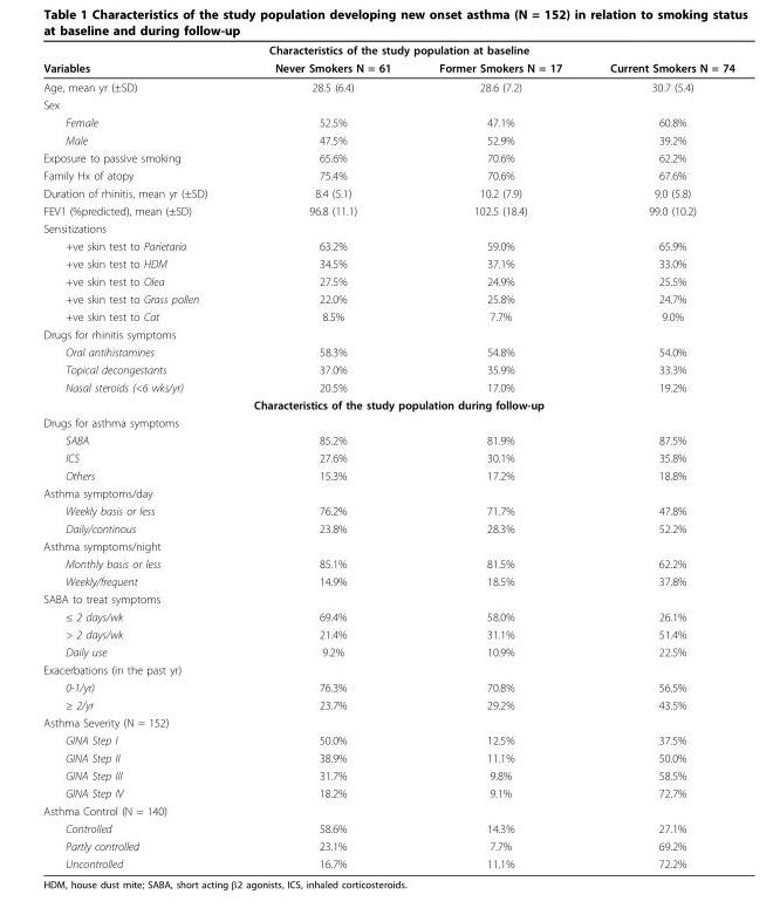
<table><tbody><tr><td colspan="4">Characteristics of the study population at baseline</td></tr><tr><td>Variables</td><td>Never Smokers N = 61</td><td>Former Smokers N = 17</td><td>Current Smokers N = 74</td></tr><tr><td>Age, mean yr (±SD)</td><td>28.5 (6.4)</td><td>28.6 (7.2)</td><td>30.7 (5.4)</td></tr><tr><td colspan="4">Sex</td></tr><tr><td>Female</td><td>52.5%</td><td>47.1%</td><td>60.8%</td></tr><tr><td>Male</td><td>47.5%</td><td>52.9%</td><td>39.2%</td></tr><tr><td>Exposure to passive smoking</td><td>65.6%</td><td>70.6%</td><td>62.2%</td></tr><tr><td>Family Hx of atopy</td><td>75.4%</td><td>70.6%</td><td>67.6%</td></tr><tr><td>Duration of rhinitis, mean yr (±SD)</td><td>8.4 (5.1)</td><td>10.2 (7.9)</td><td>9.0 (5.8)</td></tr><tr><td>FEV1 (%predicted), mean (±SD)</td><td>96.8 (11.1)</td><td>102.5 (18.4)</td><td>99.0 (10.2)</td></tr><tr><td colspan="4">Sensitizations</td></tr><tr><td>+ve skin test to Parietaria</td><td>63.2%</td><td>59.0%</td><td>65.9%</td></tr><tr><td>+ve skin test to HDM</td><td>34.5%</td><td>37.1%</td><td>33.0%</td></tr><tr><td>+ve skin test to Olea</td><td>27.5%</td><td>24.9%</td><td>25.5%</td></tr><tr><td>+ve skin test to Grass pollen</td><td>22.0%</td><td>25.8%</td><td>24.7%</td></tr><tr><td>+ve skin test to Cat</td><td>8.5%</td><td>7.7%</td><td>9.0%</td></tr><tr><td colspan="4">Drugs for rhinitis symptoms</td></tr><tr><td>Oral antihistamines</td><td>58.3%</td><td>54.8%</td><td>54.0%</td></tr><tr><td>Topical decongestants</td><td>37.0%</td><td>35.9%</td><td>33.3%</td></tr><tr><td>Nasal steroids (&lt;6 wks/yr)</td><td>20.5%</td><td>17.0%</td><td>19.2%</td></tr><tr><td colspan="4">Characteristics of the study population during follow-up</td></tr><tr><td colspan="4">Drugs for asthma symptoms</td></tr><tr><td>SABA</td><td>85.2%</td><td>81.9%</td><td>87.5%</td></tr><tr><td>ICS</td><td>27.6%</td><td>30.1%</td><td>35.8%</td></tr><tr><td>Others</td><td>15.3%</td><td>17.2%</td><td>18.8%</td></tr><tr><td colspan="4">Asthma symptoms/day</td></tr><tr><td>Weekly basis or less</td><td>76.2%</td><td>71.7%</td><td>47.8%</td></tr><tr><td>Daily/continous</td><td>23.8%</td><td>28.3%</td><td>52.2%</td></tr><tr><td colspan="4">Asthma symptoms/night</td></tr><tr><td>Monthly basis or less</td><td>85.1%</td><td>81.5%</td><td>62.2%</td></tr><tr><td>Weekly/frequent</td><td>14.9%</td><td>18.5%</td><td>37.8%</td></tr><tr><td colspan="4">SABA to treat symptoms</td></tr><tr><td>≤ 2 days/wk</td><td>69.4%</td><td>58.0%</td><td>26.1%</td></tr><tr><td>&gt; 2 days/wk</td><td>21.4%</td><td>31.1%</td><td>51.4%</td></tr><tr><td>Daily use</td><td>9.2%</td><td>10.9%</td><td>22.5%</td></tr><tr><td colspan="4">Exacerbations (in the past yr)</td></tr><tr><td>0-1/yr)</td><td>76.3%</td><td>70.8%</td><td>56.5%</td></tr><tr><td>≥ 2/yr</td><td>23.7%</td><td>29.2%</td><td>43.5%</td></tr><tr><td colspan="4">Asthma Severity (N = 152)</td></tr><tr><td>GINA Step I</td><td>50.0%</td><td>12.5%</td><td>37.5%</td></tr><tr><td>GINA Step II</td><td>38.9%</td><td>11.1%</td><td>50.0%</td></tr><tr><td>GINA Step III</td><td>31.7%</td><td>9.8%</td><td>58.5%</td></tr><tr><td>GINA Step IV</td><td>18.2%</td><td>9.1%</td><td>72.7%</td></tr><tr><td colspan="4">Asthma Control (N = 140)</td></tr><tr><td>Controlled</td><td>58.6%</td><td>14.3%</td><td>27.1%</td></tr><tr><td>Partly controlled</td><td>23.1%</td><td>7.7%</td><td>69.2%</td></tr><tr><td>Uncontrolled</td><td>16.7%</td><td>11.1%</td><td>72.2%</td></tr></tbody></table>